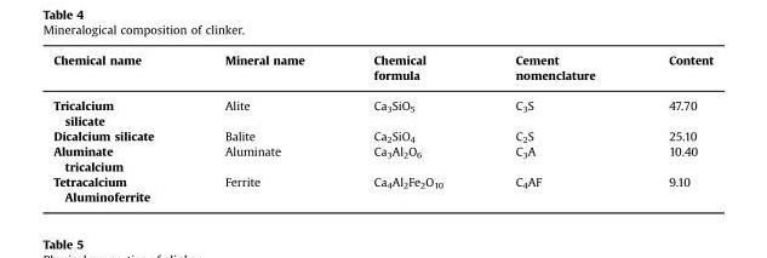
<table><thead><tr><td>Chemical name</td><td>Mineral name</td><td>Chemical formula</td><td>Cement nomenclature</td><td>Content</td></tr></thead><tbody><tr><td>Tricalcium silicate</td><td>Alite</td><td>Ca<sub>3</sub>SiO<sub>5</sub></td><td>C<sub>3</sub>S</td><td>47.70</td></tr><tr><td>Dicalcium silicate</td><td>Balite</td><td>Ca<sub>2</sub>SiO<sub>4</sub></td><td>C<sub>2</sub>S</td><td>25.10</td></tr><tr><td>Aluminate tricalcium</td><td>Aluminate</td><td>Ca<sub>3</sub>Al<sub>2</sub>O<sub>6</sub></td><td>C<sub>3</sub>A</td><td>10.40</td></tr><tr><td>Tetracalcium Aluminoferrite</td><td>Ferrite</td><td>Ca<sub>4</sub>Al<sub>2</sub>Fe<sub>2</sub>O<sub>10</sub></td><td>C<sub>4</sub>AF</td><td>9.10</td></tr></tbody></table>